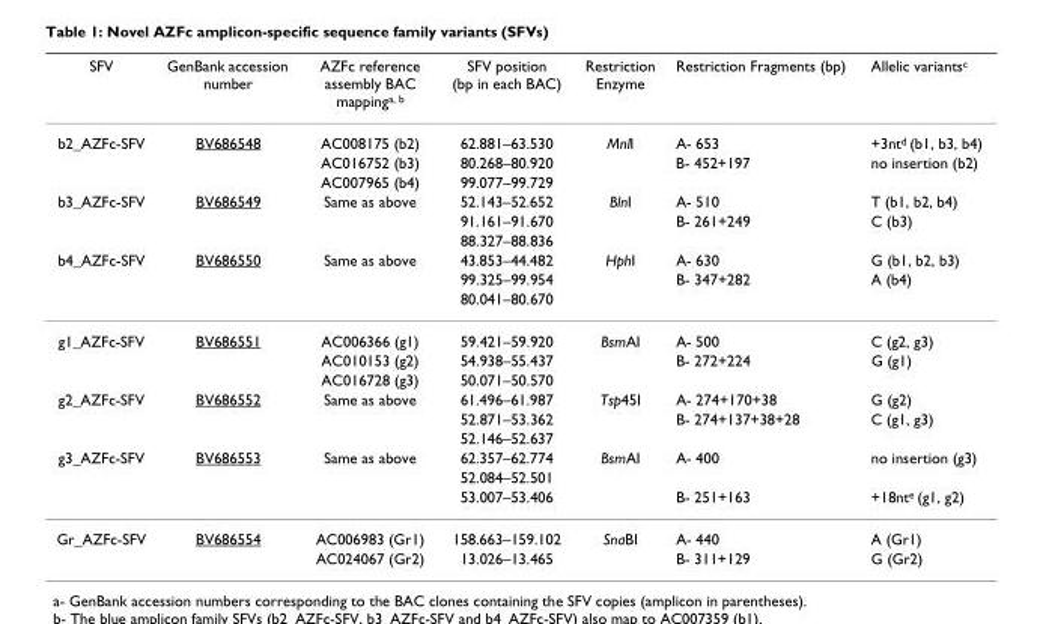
<table><thead><tr><td>SFV</td><td>GenBank accession number</td><td>AZFc reference assembly BAC mapping<sup>a, b</sup></td><td>SFV position (bp in each BAC)</td><td>Restriction Enzyme</td><td>Restriction Fragments (bp)</td><td>Allelic variants<sup>c</sup></td></tr></thead><tbody><tr><td rowspan="3">b2_AZFc-SFV</td><td>BV686548</td><td>AC008175 (b2)</td><td>62.881–63.530</td><td>MnlI</td><td>A- 653</td><td>+3nt<sup>d</sup> (b1, b3, b4)</td></tr><tr><td></td><td>AC016752 (b3)</td><td>80.268–80.920</td><td></td><td>B- 452+197</td><td>no insertion (b2)</td></tr><tr><td></td><td>AC007965 (b4)</td><td>99.077–99.729</td><td></td><td></td><td></td></tr><tr><td rowspan="3">b3_AZFc-SFV</td><td>BV686549</td><td>Same as above</td><td>52.143–52.652</td><td>BlnI</td><td>A- 510</td><td>T (b1, b2, b4)</td></tr><tr><td></td><td></td><td>91.161–91.670</td><td></td><td>B- 261+249</td><td>C (b3)</td></tr><tr><td></td><td></td><td>88.327–88.836</td><td></td><td></td><td></td></tr><tr><td rowspan="3">b4_AZFc-SFV</td><td>BV686550</td><td>Same as above</td><td>43.853–44.482</td><td>HphI</td><td>A- 630</td><td>G (b1, b2, b3)</td></tr><tr><td></td><td></td><td>99.325–99.954</td><td></td><td>B- 347+282</td><td>A (b4)</td></tr><tr><td></td><td></td><td>80.041–80.670</td><td></td><td></td><td></td></tr><tr><td rowspan="3">g1_AZFc-SFV</td><td>BV686551</td><td>AC006366 (g1)</td><td>59.421–59.920</td><td>BsmAI</td><td>A- 500</td><td>C (g2, g3)</td></tr><tr><td></td><td>AC010153 (g2)</td><td>54.938–55.437</td><td></td><td>B- 272+224</td><td>G (g1)</td></tr><tr><td></td><td>AC016728 (g3)</td><td>50.071–50.570</td><td></td><td></td><td></td></tr><tr><td rowspan="3">g2_AZFc-SFV</td><td>BV686552</td><td>Same as above</td><td>61.496–61.987</td><td>Tsp45I</td><td>A- 274+170+38</td><td>G (g2)</td></tr><tr><td></td><td></td><td>52.871–53.362</td><td></td><td>B- 274+137+38+28</td><td>C (g1, g3)</td></tr><tr><td></td><td></td><td>52.146–52.637</td><td></td><td></td><td></td></tr><tr><td rowspan="3">g3_AZFc-SFV</td><td>BV686553</td><td>Same as above</td><td>62.357–62.774</td><td>BsmAI</td><td>A- 400</td><td>no insertion (g3)</td></tr><tr><td></td><td></td><td>52.084–52.501</td><td></td><td></td><td></td></tr><tr><td></td><td></td><td>53.007–53.406</td><td></td><td>B- 251+163</td><td>+18nt<sup>e</sup> (g1, g2)</td></tr><tr><td rowspan="2">Gr_AZFc-SFV</td><td>BV686554</td><td>AC006983 (Gr1)</td><td>158.663–159.102</td><td>SnaBI</td><td>A- 440</td><td>A (Gr1)</td></tr><tr><td></td><td>AC024067 (Gr2)</td><td>13.026–13.465</td><td></td><td>B- 311+129</td><td>G (Gr2)</td></tr></tbody></table>